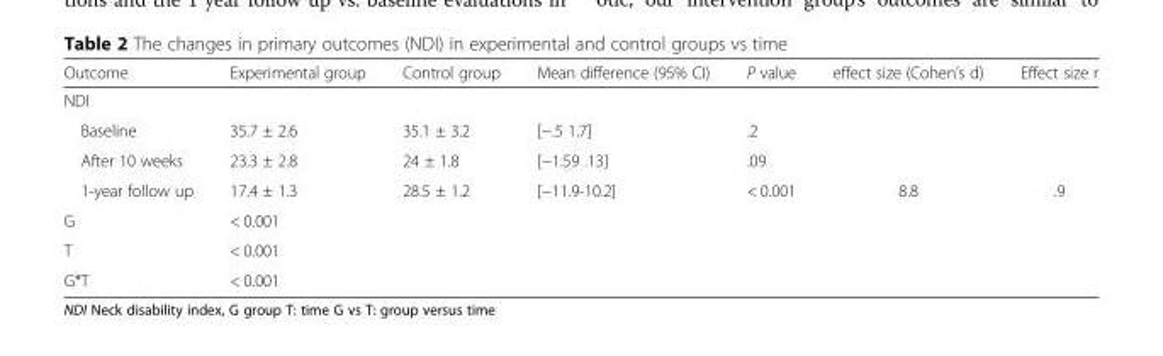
<table><thead><tr><td>Outcome</td><td>Experimental group</td><td>Control group</td><td>Mean difference (95% CI)</td><td>P value</td><td>effect size (Cohen’s d)</td><td>Effect size r</td></tr></thead><tbody><tr><td colspan="7">NDI</td></tr><tr><td>Baseline</td><td>35.7 ± 2.6</td><td>35.1 ± 3.2</td><td>[−.5 1.7]</td><td>.2</td><td></td><td></td></tr><tr><td>After 10 weeks</td><td>23.3 ± 2.8</td><td>24 ± 1.8</td><td>[−1.59 .13]</td><td>.09</td><td></td><td></td></tr><tr><td>1-year follow up</td><td>17.4 ± 1.3</td><td>28.5 ± 1.2</td><td>[−11.9-10.2]</td><td>&lt; 0.001</td><td>8.8</td><td>.9</td></tr><tr><td>G</td><td colspan="2">&lt; 0.001</td><td rowspan="3" colspan="4"></td></tr><tr><td>T</td><td colspan="2">&lt; 0.001</td></tr><tr><td>G*T</td><td colspan="2">&lt; 0.001</td></tr></tbody></table>